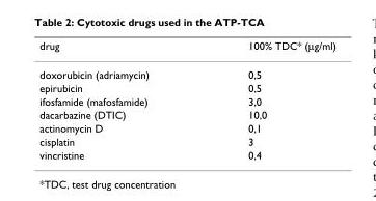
<table><thead><tr><td>drug</td><td>100% TDC* (µg/ml)</td></tr></thead><tbody><tr><td>doxorubicin (adriamycin)</td><td>0,5</td></tr><tr><td>epirubicin</td><td>0,5</td></tr><tr><td>ifosfamide (mafosfamide)</td><td>3,0</td></tr><tr><td>dacarbazine (DTIC)</td><td>10,0</td></tr><tr><td>actinomycin D</td><td>0,1</td></tr><tr><td>cisplatin</td><td>3</td></tr><tr><td>vincristine</td><td>0,4</td></tr></tbody></table>